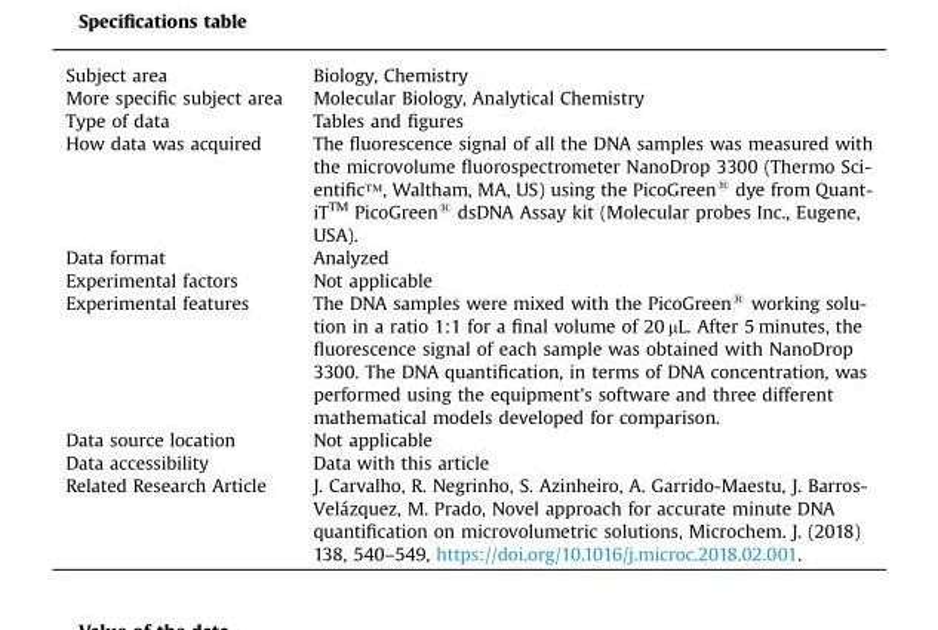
<table><tbody><tr><td>Subject area</td><td>Biology, Chemistry</td></tr><tr><td>More specific subject area</td><td>Molecular Biology, Analytical Chemistry</td></tr><tr><td>Type of data</td><td>Tables and figures</td></tr><tr><td>How data was acquired</td><td>The fluorescence signal of all the DNA samples was measured with the microvolume fluorospectrometer NanoDrop 3300 (Thermo Sci- entific™, Waltham, MA, US) using the PicoGreens dye from Quant- iTTM PicoGreens dsDNA Assay kit (Molecular probes Inc., Eugene, USA).</td></tr><tr><td>Data format</td><td>Analyzed</td></tr><tr><td>Experimental factors</td><td>Not applicable</td></tr><tr><td>Experimental features</td><td>The DNA samples were mixed with the PicoGreens working solu- tion in a ratio 1:1 for a final volume of 20 mL. After 5 minutes, the fluorescence signal of each sample was obtained with NanoDrop 3300. The DNA quantification, in terms of DNA concentration, was performed using the equipment&#x27;s software and three different mathematical models developed for comparison.</td></tr><tr><td>Data source location</td><td>Not applicable</td></tr><tr><td>Data accessibility</td><td>Data with this article</td></tr><tr><td>Related Research Article</td><td>J. Carvalho, R. Negrinho, S. Azinheiro, A. Garrido-Maestu, J. Barros- Velázquez, M. Prado, Novel approach for accurate minute DNA quantification on microvolumetric solutions, Microchem. J. (2018) 138, 540–549, https://doi.org/10.1016/j.microc.2018.02.001.</td></tr></tbody></table>